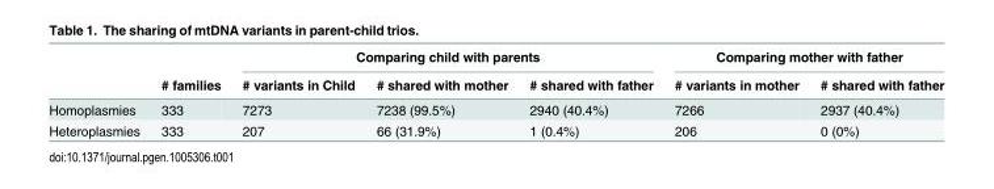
<table><thead><tr><td rowspan="2"></td><td rowspan="2"># families</td><td colspan="3">Comparing child with parents</td><td colspan="2">Comparing mother with father</td></tr><tr><td># variants in Child</td><td># shared with mother</td><td># shared with father</td><td># variants in mother</td><td># shared with father</td></tr></thead><tbody><tr><td>Homoplasmies</td><td>333</td><td>7273</td><td>7238 (99.5%)</td><td>2940 (40.4%)</td><td>7266</td><td>2937 (40.4%)</td></tr><tr><td>Heteroplasmies</td><td>333</td><td>207</td><td>66 (31.9%)</td><td>1 (0.4%)</td><td>206</td><td>0 (0%)</td></tr></tbody></table>